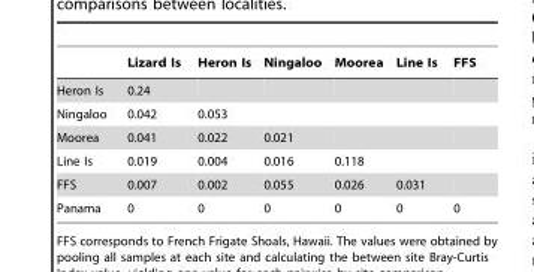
<table><thead><tr><td></td><td>Lizard Is</td><td>Heron Is</td><td>Ningaloo</td><td>Moorea</td><td>Line Is</td><td>FFS</td></tr></thead><tbody><tr><td>Heron Is</td><td>0.24</td><td></td><td></td><td></td><td></td><td></td></tr><tr><td>Ningaloo</td><td>0.042</td><td>0.053</td><td></td><td></td><td></td><td></td></tr><tr><td>Moorea</td><td>0.041</td><td>0.022</td><td>0.021</td><td></td><td></td><td></td></tr><tr><td>Line Is</td><td>0.019</td><td>0.004</td><td>0.016</td><td>0.118</td><td></td><td></td></tr><tr><td>FFS</td><td>0.007</td><td>0.002</td><td>0.055</td><td>0.026</td><td>0.031</td><td></td></tr><tr><td>Panama</td><td>0</td><td>0</td><td>0</td><td>0</td><td>0</td><td>0</td></tr></tbody></table>